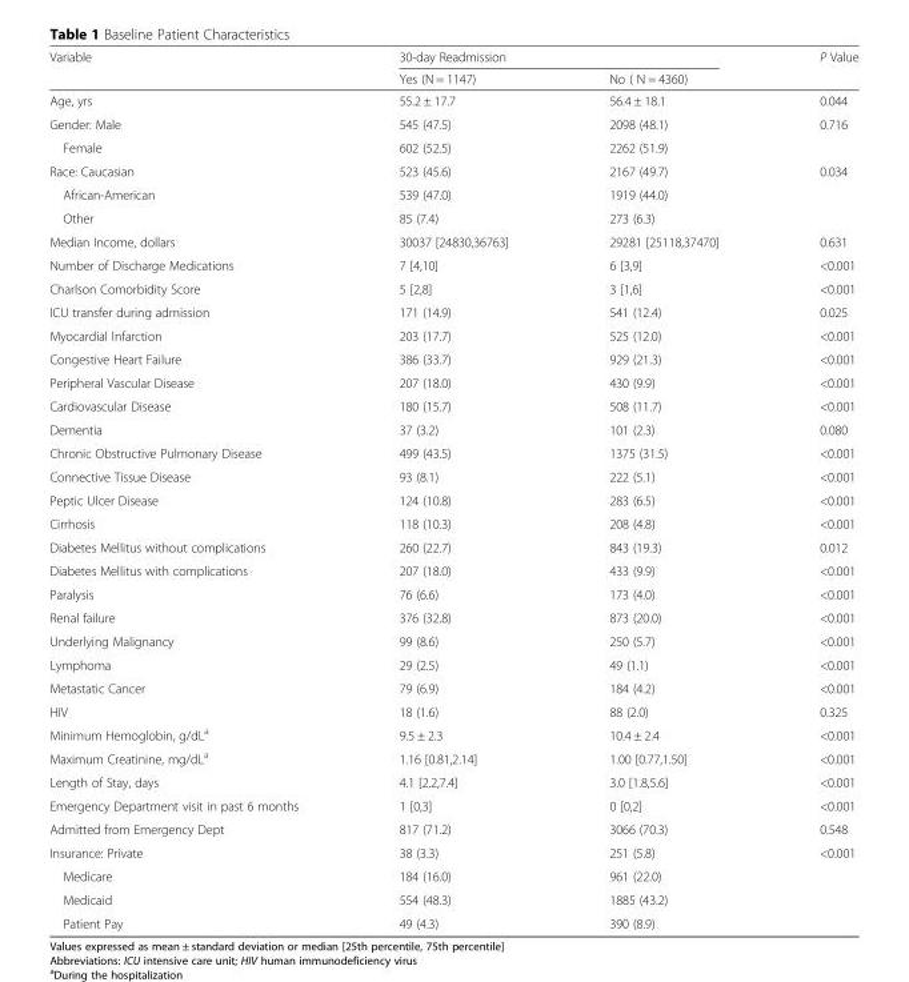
<table><thead><tr><td rowspan="2">Variable</td><td colspan="2">30-day Readmission</td><td rowspan="2">P Value</td></tr><tr><td>Yes (N = 1147)</td><td>No ( N = 4360)</td></tr></thead><tbody><tr><td>Age, yrs</td><td>55.2 ± 17.7</td><td>56.4 ± 18.1</td><td>0.044</td></tr><tr><td>Gender: Male</td><td>545 (47.5)</td><td>2098 (48.1)</td><td>0.716</td></tr><tr><td>Female</td><td>602 (52.5)</td><td>2262 (51.9)</td><td></td></tr><tr><td>Race: Caucasian</td><td>523 (45.6)</td><td>2167 (49.7)</td><td>0.034</td></tr><tr><td>African-American</td><td>539 (47.0)</td><td>1919 (44.0)</td><td></td></tr><tr><td>Other</td><td>85 (7.4)</td><td>273 (6.3)</td><td></td></tr><tr><td>Median Income, dollars</td><td>30037 [24830,36763]</td><td>29281 [25118,37470]</td><td>0.631</td></tr><tr><td>Number of Discharge Medications</td><td>7 [4,10]</td><td>6 [3,9]</td><td>&lt;0.001</td></tr><tr><td>Charlson Comorbidity Score</td><td>5 [2,8]</td><td>3 [1,6]</td><td>&lt;0.001</td></tr><tr><td>ICU transfer during admission</td><td>171 (14.9)</td><td>541 (12.4)</td><td>0.025</td></tr><tr><td>Myocardial Infarction</td><td>203 (17.7)</td><td>525 (12.0)</td><td>&lt;0.001</td></tr><tr><td>Congestive Heart Failure</td><td>386 (33.7)</td><td>929 (21.3)</td><td>&lt;0.001</td></tr><tr><td>Peripheral Vascular Disease</td><td>207 (18.0)</td><td>430 (9.9)</td><td>&lt;0.001</td></tr><tr><td>Cardiovascular Disease</td><td>180 (15.7)</td><td>508 (11.7)</td><td>&lt;0.001</td></tr><tr><td>Dementia</td><td>37 (3.2)</td><td>101 (2.3)</td><td>0.080</td></tr><tr><td>Chronic Obstructive Pulmonary Disease</td><td>499 (43.5)</td><td>1375 (31.5)</td><td>&lt;0.001</td></tr><tr><td>Connective Tissue Disease</td><td>93 (8.1)</td><td>222 (5.1)</td><td>&lt;0.001</td></tr><tr><td>Peptic Ulcer Disease</td><td>124 (10.8)</td><td>283 (6.5)</td><td>&lt;0.001</td></tr><tr><td>Cirrhosis</td><td>118 (10.3)</td><td>208 (4.8)</td><td>&lt;0.001</td></tr><tr><td>Diabetes Mellitus without complications</td><td>260 (22.7)</td><td>843 (19.3)</td><td>0.012</td></tr><tr><td>Diabetes Mellitus with complications</td><td>207 (18.0)</td><td>433 (9.9)</td><td>&lt;0.001</td></tr><tr><td>Paralysis</td><td>76 (6.6)</td><td>173 (4.0)</td><td>&lt;0.001</td></tr><tr><td>Renal failure</td><td>376 (32.8)</td><td>873 (20.0)</td><td>&lt;0.001</td></tr><tr><td>Underlying Malignancy</td><td>99 (8.6)</td><td>250 (5.7)</td><td>&lt;0.001</td></tr><tr><td>Lymphoma</td><td>29 (2.5)</td><td>49 (1.1)</td><td>&lt;0.001</td></tr><tr><td>Metastatic Cancer</td><td>79 (6.9)</td><td>184 (4.2)</td><td>&lt;0.001</td></tr><tr><td>HIV</td><td>18 (1.6)</td><td>88 (2.0)</td><td>0.325</td></tr><tr><td>Minimum Hemoglobin, g/dL<sup>a</sup></td><td>9.5 ± 2.3</td><td>10.4 ± 2.4</td><td>&lt;0.001</td></tr><tr><td>Maximum Creatinine, mg/dL<sup>a</sup></td><td>1.16 [0.81,2.14]</td><td>1.00 [0.77,1.50]</td><td>&lt;0.001</td></tr><tr><td>Length of Stay, days</td><td>4.1 [2.2,7.4]</td><td>3.0 [1.8,5.6]</td><td>&lt;0.001</td></tr><tr><td>Emergency Department visit in past 6 months</td><td>1 [0,3]</td><td>0 [0,2]</td><td>&lt;0.001</td></tr><tr><td>Admitted from Emergency Dept</td><td>817 (71.2)</td><td>3066 (70.3)</td><td>0.548</td></tr><tr><td>Insurance: Private</td><td>38 (3.3)</td><td>251 (5.8)</td><td>&lt;0.001</td></tr><tr><td>Medicare</td><td>184 (16.0)</td><td>961 (22.0)</td><td></td></tr><tr><td>Medicaid</td><td>554 (48.3)</td><td>1885 (43.2)</td><td></td></tr><tr><td>Patient Pay</td><td>49 (4.3)</td><td>390 (8.9)</td><td></td></tr></tbody></table>